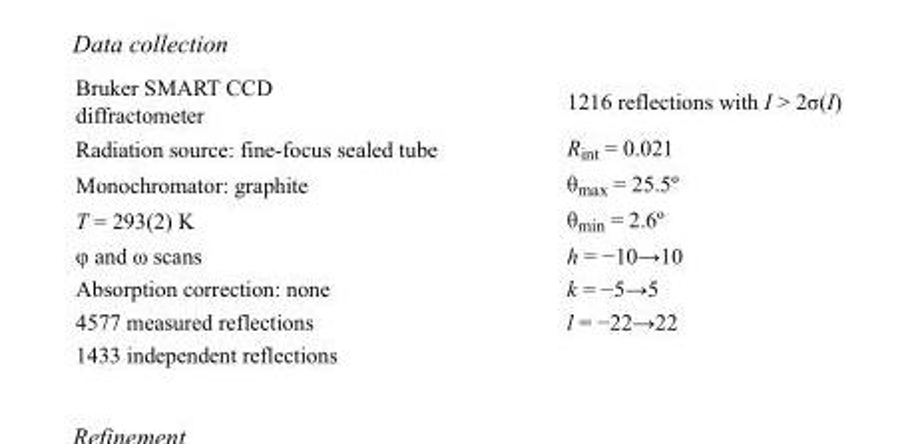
<table><tbody><tr><td>Bruker SMART CCD diffractometer</td><td>1216 reflections with I &gt; 2σ(I)</td></tr><tr><td>Radiation source: fine-focus sealed tube</td><td>R<sub>int</sub> = 0.021</td></tr><tr><td>Monochromator: graphite</td><td>θ<sub>max</sub> = 25.5º</td></tr><tr><td>T = 293(2) K</td><td>θ<sub>min</sub> = 2.6º</td></tr><tr><td>φ and ω scans</td><td>h = −10→10</td></tr><tr><td>Absorption correction: none</td><td>k = −5→5</td></tr><tr><td>4577 measured reflections</td><td>l = −22→22</td></tr><tr><td>1433 independent reflections</td><td></td></tr></tbody></table>